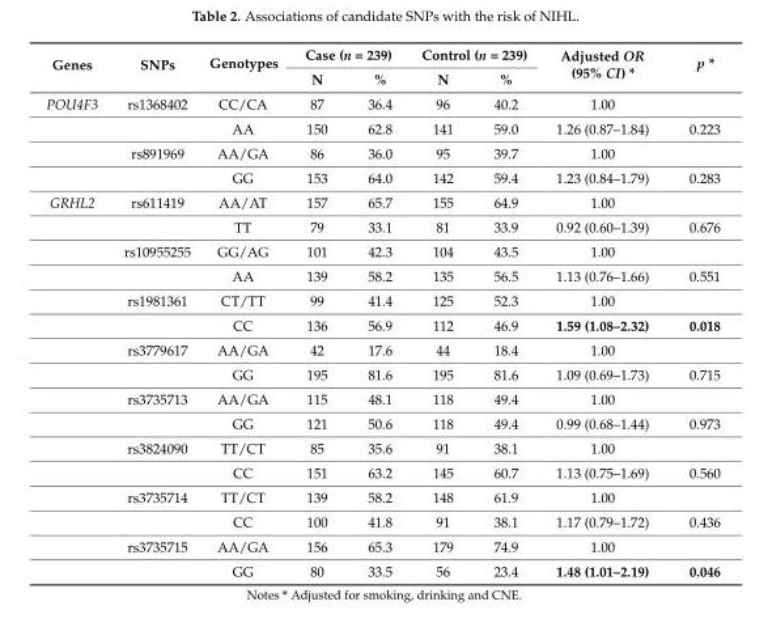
<table><thead><tr><td rowspan="2">Genes</td><td rowspan="2">SNPs</td><td rowspan="2">Genotypes</td><td colspan="2">Case (n = 239)</td><td colspan="2">Control (n = 239)</td><td rowspan="2">Adjusted OR (95% CI) *</td><td rowspan="2">p *</td></tr><tr><td>N</td><td>%</td><td>N</td><td>%</td></tr></thead><tbody><tr><td rowspan="4">POU4F3</td><td>rs1368402</td><td>CC/CA</td><td>87</td><td>36.4</td><td>96</td><td>40.2</td><td>1.00</td><td></td></tr><tr><td></td><td>AA</td><td>150</td><td>62.8</td><td>141</td><td>59.0</td><td>1.26 (0.87–1.84)</td><td>0.223</td></tr><tr><td>rs891969</td><td>AA/GA</td><td>86</td><td>36.0</td><td>95</td><td>39.7</td><td>1.00</td><td></td></tr><tr><td></td><td>GG</td><td>153</td><td>64.0</td><td>142</td><td>59.4</td><td>1.23 (0.84–1.79)</td><td>0.283</td></tr><tr><td rowspan="16">GRHL2</td><td>rs611419</td><td>AA/AT</td><td>157</td><td>65.7</td><td>155</td><td>64.9</td><td>1.00</td><td></td></tr><tr><td></td><td>TT</td><td>79</td><td>33.1</td><td>81</td><td>33.9</td><td>0.92 (0.60–1.39)</td><td>0.676</td></tr><tr><td>rs10955255</td><td>GG/AG</td><td>101</td><td>42.3</td><td>104</td><td>43.5</td><td>1.00</td><td></td></tr><tr><td></td><td>AA</td><td>139</td><td>58.2</td><td>135</td><td>56.5</td><td>1.13 (0.76–1.66)</td><td>0.551</td></tr><tr><td>rs1981361</td><td>CT/TT</td><td>99</td><td>41.4</td><td>125</td><td>52.3</td><td>1.00</td><td></td></tr><tr><td></td><td>CC</td><td>136</td><td>56.9</td><td>112</td><td>46.9</td><td>1.59 (1.08–2.32)</td><td>0.018</td></tr><tr><td>rs3779617</td><td>AA/GA</td><td>42</td><td>17.6</td><td>44</td><td>18.4</td><td>1.00</td><td></td></tr><tr><td></td><td>GG</td><td>195</td><td>81.6</td><td>195</td><td>81.6</td><td>1.09 (0.69–1.73)</td><td>0.715</td></tr><tr><td>rs3735713</td><td>AA/GA</td><td>115</td><td>48.1</td><td>118</td><td>49.4</td><td>1.00</td><td></td></tr><tr><td></td><td>GG</td><td>121</td><td>50.6</td><td>118</td><td>49.4</td><td>0.99 (0.68–1.44)</td><td>0.973</td></tr><tr><td>rs3824090</td><td>TT/CT</td><td>85</td><td>35.6</td><td>91</td><td>38.1</td><td>1.00</td><td></td></tr><tr><td></td><td>CC</td><td>151</td><td>63.2</td><td>145</td><td>60.7</td><td>1.13 (0.75–1.69)</td><td>0.560</td></tr><tr><td>rs3735714</td><td>TT/CT</td><td>139</td><td>58.2</td><td>148</td><td>61.9</td><td>1.00</td><td></td></tr><tr><td></td><td>CC</td><td>100</td><td>41.8</td><td>91</td><td>38.1</td><td>1.17 (0.79–1.72)</td><td>0.436</td></tr><tr><td>rs3735715</td><td>AA/GA</td><td>156</td><td>65.3</td><td>179</td><td>74.9</td><td>1.00</td><td></td></tr><tr><td></td><td>GG</td><td>80</td><td>33.5</td><td>56</td><td>23.4</td><td>1.48 (1.01–2.19)</td><td>0.046</td></tr></tbody></table>